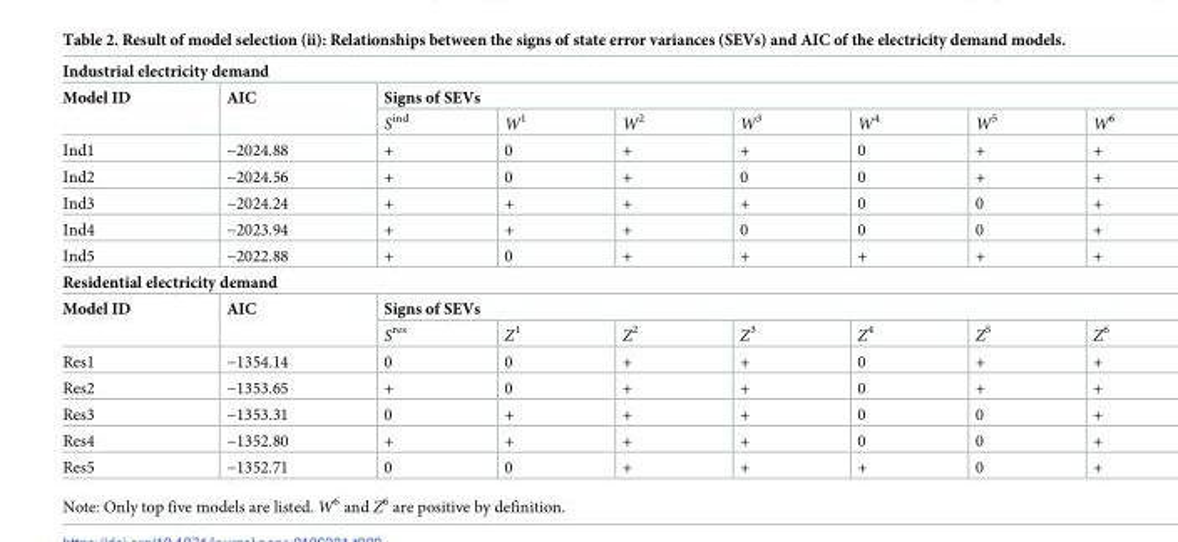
<table><tbody><tr><td colspan="9">Industrial electricity demand</td></tr><tr><td rowspan="2">Model ID</td><td rowspan="2">AIC</td><td colspan="7">Signs of SEVs</td></tr><tr><td>S<sup>ind</sup></td><td>W<sup>1</sup></td><td>W<sup>2</sup></td><td>W<sup>3</sup></td><td>W<sup>4</sup></td><td>W<sup>5</sup></td><td>W<sup>6</sup></td></tr><tr><td>Ind1</td><td>−2024.88</td><td>+</td><td>0</td><td>+</td><td>+</td><td>0</td><td>+</td><td>+</td></tr><tr><td>Ind2</td><td>−2024.56</td><td>+</td><td>0</td><td>+</td><td>0</td><td>0</td><td>+</td><td>+</td></tr><tr><td>Ind3</td><td>−2024.24</td><td>+</td><td>+</td><td>+</td><td>+</td><td>0</td><td>0</td><td>+</td></tr><tr><td>Ind4</td><td>−2023.94</td><td>+</td><td>+</td><td>+</td><td>0</td><td>0</td><td>0</td><td>+</td></tr><tr><td>Ind5</td><td>−2022.88</td><td>+</td><td>0</td><td>+</td><td>+</td><td>+</td><td>+</td><td>+</td></tr><tr><td colspan="9">Residential electricity demand</td></tr><tr><td rowspan="2">Model ID</td><td rowspan="2">AIC</td><td colspan="7">Signs of SEVs</td></tr><tr><td>S<sup>res</sup></td><td>Z<sup>1</sup></td><td>Z<sup>2</sup></td><td>Z<sup>3</sup></td><td>Z<sup>4</sup></td><td>Z<sup>5</sup></td><td>Z<sup>6</sup></td></tr><tr><td>Res1</td><td>−1354.14</td><td>0</td><td>0</td><td>+</td><td>+</td><td>0</td><td>+</td><td>+</td></tr><tr><td>Res2</td><td>−1353.65</td><td>+</td><td>0</td><td>+</td><td>+</td><td>0</td><td>+</td><td>+</td></tr><tr><td>Res3</td><td>−1353.31</td><td>0</td><td>+</td><td>+</td><td>+</td><td>0</td><td>0</td><td>+</td></tr><tr><td>Res4</td><td>−1352.80</td><td>+</td><td>+</td><td>+</td><td>+</td><td>0</td><td>0</td><td>+</td></tr><tr><td>Res5</td><td>−1352.71</td><td>0</td><td>0</td><td>+</td><td>+</td><td>+</td><td>0</td><td>+</td></tr></tbody></table>